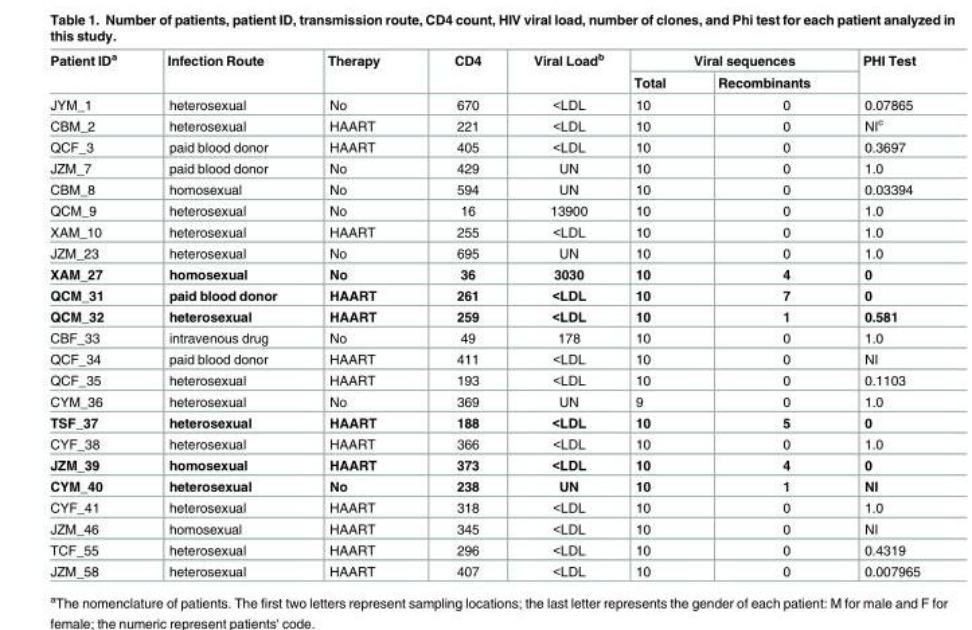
<table><thead><tr><td rowspan="2">Patient ID<sup>a</sup></td><td rowspan="2">Infection Route</td><td rowspan="2">Therapy</td><td rowspan="2">CD4</td><td rowspan="2">Viral Load<sup>b</sup></td><td colspan="2">Viral sequences</td><td rowspan="2">PHI Test</td></tr><tr><td>Total</td><td>Recombinants</td></tr></thead><tbody><tr><td>JYM_1</td><td>heterosexual</td><td>No</td><td>670</td><td>&lt;LDL</td><td>10</td><td>0</td><td>0.07865</td></tr><tr><td>CBM_2</td><td>heterosexual</td><td>HAART</td><td>221</td><td>&lt;LDL</td><td>10</td><td>0</td><td>NI<sup>c</sup></td></tr><tr><td>QCF_3</td><td>paid blood donor</td><td>HAART</td><td>405</td><td>&lt;LDL</td><td>10</td><td>0</td><td>0.3697</td></tr><tr><td>JZM_7</td><td>paid blood donor</td><td>No</td><td>429</td><td>UN</td><td>10</td><td>0</td><td>1.0</td></tr><tr><td>CBM_8</td><td>homosexual</td><td>No</td><td>594</td><td>UN</td><td>10</td><td>0</td><td>0.03394</td></tr><tr><td>QCM_9</td><td>heterosexual</td><td>No</td><td>16</td><td>13900</td><td>10</td><td>0</td><td>1.0</td></tr><tr><td>XAM_10</td><td>heterosexual</td><td>HAART</td><td>255</td><td>&lt;LDL</td><td>10</td><td>0</td><td>1.0</td></tr><tr><td>JZM_23</td><td>heterosexual</td><td>No</td><td>695</td><td>UN</td><td>10</td><td>0</td><td>1.0</td></tr><tr><td>XAM_27</td><td>homosexual</td><td>No</td><td>36</td><td>3030</td><td>10</td><td>4</td><td>0</td></tr><tr><td>QCM_31</td><td>paid blood donor</td><td>HAART</td><td>261</td><td>&lt;LDL</td><td>10</td><td>7</td><td>0</td></tr><tr><td>QCM_32</td><td>heterosexual</td><td>HAART</td><td>259</td><td>&lt;LDL</td><td>10</td><td>1</td><td>0.581</td></tr><tr><td>CBF_33</td><td>intravenous drug</td><td>No</td><td>49</td><td>178</td><td>10</td><td>0</td><td>1.0</td></tr><tr><td>QCF_34</td><td>paid blood donor</td><td>HAART</td><td>411</td><td>&lt;LDL</td><td>10</td><td>0</td><td>NI</td></tr><tr><td>QCF_35</td><td>heterosexual</td><td>HAART</td><td>193</td><td>&lt;LDL</td><td>10</td><td>0</td><td>0.1103</td></tr><tr><td>CYM_36</td><td>heterosexual</td><td>No</td><td>369</td><td>UN</td><td>9</td><td>0</td><td>1.0</td></tr><tr><td>TSF_37</td><td>heterosexual</td><td>HAART</td><td>188</td><td>&lt;LDL</td><td>10</td><td>5</td><td>0</td></tr><tr><td>CYF_38</td><td>heterosexual</td><td>HAART</td><td>366</td><td>&lt;LDL</td><td>10</td><td>0</td><td>1.0</td></tr><tr><td>JZM_39</td><td>homosexual</td><td>HAART</td><td>373</td><td>&lt;LDL</td><td>10</td><td>4</td><td>0</td></tr><tr><td>CYM_40</td><td>heterosexual</td><td>No</td><td>238</td><td>UN</td><td>10</td><td>1</td><td>NI</td></tr><tr><td>CYF_41</td><td>heterosexual</td><td>HAART</td><td>318</td><td>&lt;LDL</td><td>10</td><td>0</td><td>1.0</td></tr><tr><td>JZM_46</td><td>homosexual</td><td>HAART</td><td>345</td><td>&lt;LDL</td><td>10</td><td>0</td><td>NI</td></tr><tr><td>TCF_55</td><td>heterosexual</td><td>HAART</td><td>296</td><td>&lt;LDL</td><td>10</td><td>0</td><td>0.4319</td></tr><tr><td>JZM_58</td><td>heterosexual</td><td>HAART</td><td>407</td><td>&lt;LDL</td><td>10</td><td>0</td><td>0.007965</td></tr></tbody></table>